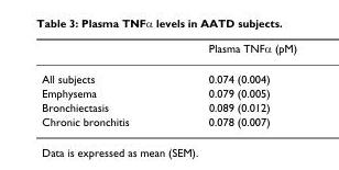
<table><thead><tr><td></td><td>Plasma TNFα (pM)</td></tr></thead><tbody><tr><td>All subjects</td><td>0.074 (0.004)</td></tr><tr><td>Emphysema</td><td>0.079 (0.005)</td></tr><tr><td>Bronchiectasis</td><td>0.089 (0.012)</td></tr><tr><td>Chronic bronchitis</td><td>0.078 (0.007)</td></tr></tbody></table>